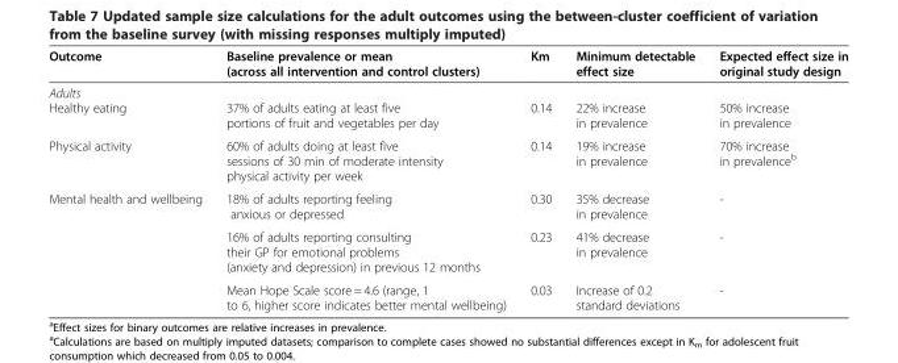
<table><thead><tr><td rowspan="2">Outcome Adults</td><td rowspan="2">Baseline prevalence or mean (across all intervention and control clusters)</td><td rowspan="2">Km</td><td rowspan="2">Minimum detectable effect size</td><td rowspan="2">Expected effect size in original study design</td></tr><tr></tr></thead><tbody><tr><td>Healthy eating</td><td>37% of adults eating at least five portions of fruit and vegetables per day</td><td>0.14</td><td>22% increase in prevalence</td><td>50% increase in prevalence</td></tr><tr><td>Physical activity</td><td>60% of adults doing at least five sessions of 30 min of moderate intensity physical activity per week</td><td>0.14</td><td>19% increase in prevalence</td><td>70% increase in prevalence<sup>b</sup></td></tr><tr><td rowspan="3">Mental health and wellbeing</td><td>18% of adults reporting feeling anxious or depressed</td><td>0.30</td><td>35% decrease in prevalence</td><td>-</td></tr><tr><td>16% of adults reporting consulting their GP for emotional problems (anxiety and depression) in previous 12 months</td><td>0.23</td><td>41% decrease in prevalence</td><td>-</td></tr><tr><td>Mean Hope Scale score = 4.6 (range, 1 to 6, higher score indicates better mental wellbeing)</td><td>0.03</td><td>Increase of 0.2 standard deviations</td><td>-</td></tr></tbody></table>